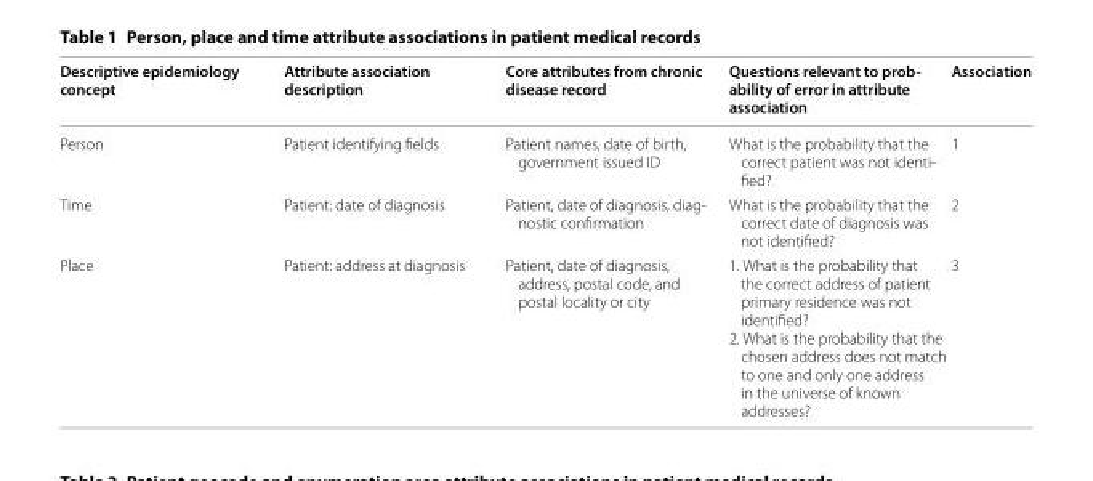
<table><thead><tr><td>Descriptive epidemiology concept</td><td>Attribute association description</td><td>Core attributes from chronic disease record</td><td>Questions relevant to prob‑ ability of error in attribute association</td><td>Association</td></tr></thead><tbody><tr><td>Person</td><td>Patient identifying fields</td><td>Patient names, date of birth, government issued ID</td><td>What is the probability that the correct patient was not identi- fied?</td><td>1</td></tr><tr><td>Time</td><td>Patient: date of diagnosis</td><td>Patient, date of diagnosis, diag- nostic confirmation</td><td>What is the probability that the correct date of diagnosis was not identified?</td><td>2</td></tr><tr><td>Place</td><td>Patient: address at diagnosis</td><td>Patient, date of diagnosis, address, postal code, and postal locality or city</td><td>1. What is the probability that the correct address of patient primary residence was not identified? 2. What is the probability that the chosen address does not match to one and only one address in the universe of known addresses?</td><td>3</td></tr></tbody></table>